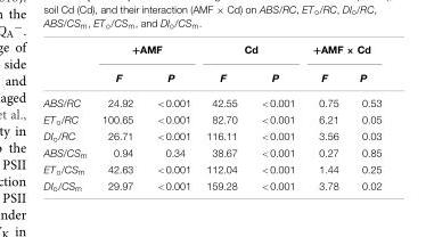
<table><thead><tr><td rowspan="2"></td><td colspan="2">+AMF</td><td colspan="2">Cd</td><td colspan="2">+AMF × Cd</td></tr><tr><td>F</td><td>P</td><td>F</td><td>P</td><td>F</td><td>P</td></tr></thead><tbody><tr><td>ABS/RC</td><td>24.92</td><td>&lt;0.001</td><td>42.55</td><td>&lt;0.001</td><td>0.75</td><td>0.53</td></tr><tr><td>ET<sub>o</sub>/RC</td><td>100.65</td><td>&lt;0.001</td><td>82.70</td><td>&lt;0.001</td><td>6.21</td><td>0.05</td></tr><tr><td>DI<sub>o</sub>/RC</td><td>26.71</td><td>&lt;0.001</td><td>116.11</td><td>&lt;0.001</td><td>3.56</td><td>0.03</td></tr><tr><td>ABS/CS<sub>m</sub></td><td>0.94</td><td>0.34</td><td>38.67</td><td>&lt;0.001</td><td>0.27</td><td>0.85</td></tr><tr><td>ET<sub>o</sub>/CS<sub>m</sub></td><td>42.63</td><td>&lt;0.001</td><td>112.04</td><td>&lt;0.001</td><td>1.44</td><td>0.25</td></tr><tr><td>DI<sub>o</sub>/CS<sub>m</sub></td><td>29.97</td><td>&lt;0.001</td><td>159.28</td><td>&lt;0.001</td><td>3.78</td><td>0.02</td></tr></tbody></table>